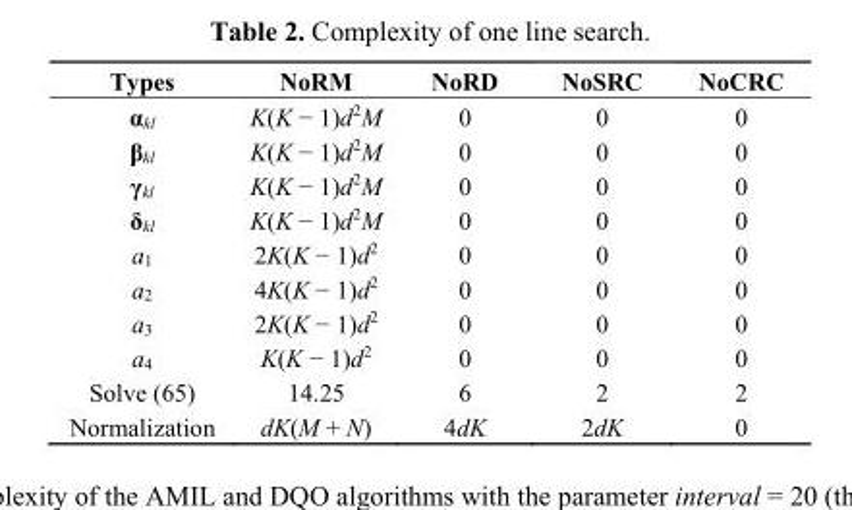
<table><thead><tr><td>Types</td><td>NoRM</td><td>NoRD</td><td>NoSRC</td><td>NoCRC</td></tr></thead><tbody><tr><td>α<sub>kl</sub></td><td>K(K − 1)d<sup>2</sup>M</td><td>0</td><td>0</td><td>0</td></tr><tr><td>β<sub>kl</sub></td><td>K(K − 1)d<sup>2</sup>M</td><td>0</td><td>0</td><td>0</td></tr><tr><td>γ<sub>kl</sub></td><td>K(K − 1)d<sup>2</sup>M</td><td>0</td><td>0</td><td>0</td></tr><tr><td>δ<sub>kl</sub></td><td>K(K − 1)d<sup>2</sup>M</td><td>0</td><td>0</td><td>0</td></tr><tr><td>a<sub>1</sub></td><td>2K(K − 1)d<sup>2</sup></td><td>0</td><td>0</td><td>0</td></tr><tr><td>a<sub>2</sub></td><td>4K(K − 1)d<sup>2</sup></td><td>0</td><td>0</td><td>0</td></tr><tr><td>a<sub>3</sub></td><td>2K(K − 1)d<sup>2</sup></td><td>0</td><td>0</td><td>0</td></tr><tr><td>a<sub>4</sub></td><td>K(K − 1)d<sup>2</sup></td><td>0</td><td>0</td><td>0</td></tr><tr><td>Solve (65)</td><td>14.25</td><td>6</td><td>2</td><td>2</td></tr><tr><td>Normalization</td><td>dK(M + N)</td><td>4dK</td><td>2dK</td><td>0</td></tr></tbody></table>